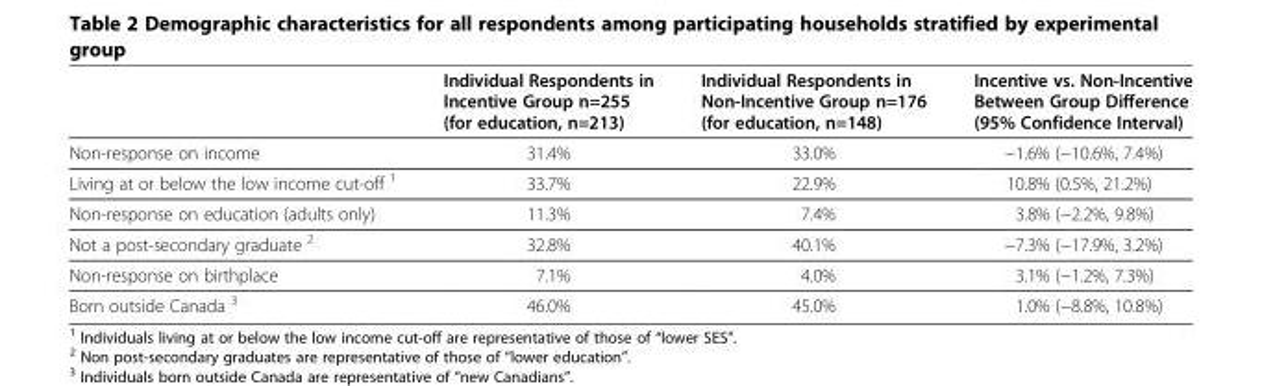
<table><thead><tr><td></td><td>Individual Respondents in Incentive Group n=255 (for education, n=213)</td><td>Individual Respondents in Non-Incentive Group n=176 (for education, n=148)</td><td>Incentive vs. Non-Incentive Between Group Difference (95% Confidence Interval)</td></tr></thead><tbody><tr><td>Non-response on income</td><td>31.4%</td><td>33.0%</td><td>−1.6% (−10.6%, 7.4%)</td></tr><tr><td>Living at or below the low income cut-off <sup>1</sup></td><td>33.7%</td><td>22.9%</td><td>10.8% (0.5%, 21.2%)</td></tr><tr><td>Non-response on education (adults only)</td><td>11.3%</td><td>7.4%</td><td>3.8% (−2.2%, 9.8%)</td></tr><tr><td>Not a post-secondary graduate <sup>2</sup></td><td>32.8%</td><td>40.1%</td><td>−7.3% (−17.9%, 3.2%)</td></tr><tr><td>Non-response on birthplace</td><td>7.1%</td><td>4.0%</td><td>3.1% (−1.2%, 7.3%)</td></tr><tr><td>Born outside Canada <sup>3</sup></td><td>46.0%</td><td>45.0%</td><td>1.0% (−8.8%, 10.8%)</td></tr></tbody></table>